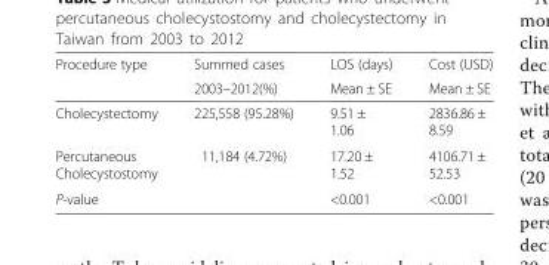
<table><thead><tr><td rowspan="2">Procedure type</td><td rowspan="2">Summed cases 2003–2012(%)</td><td rowspan="2">LOS (days) Mean ± SE</td><td rowspan="2">Cost (USD) Mean ± SE</td></tr><tr></tr></thead><tbody><tr><td>Cholecystectomy</td><td>225,558 (95.28%)</td><td>9.51 ± 1.06</td><td>2836.86 ± 8.59</td></tr><tr><td>Percutaneous Cholecystostomy</td><td>11,184 (4.72%)</td><td>17.20 ± 1.52</td><td>4106.71 ± 52.53</td></tr><tr><td>P-value</td><td></td><td>&lt;0.001</td><td>&lt;0.001</td></tr></tbody></table>